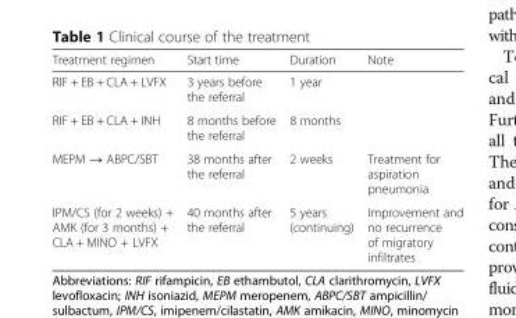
<table><thead><tr><td>Treatment regimen</td><td>Start time</td><td>Duration</td><td>Note</td></tr></thead><tbody><tr><td>RIF + EB + CLA + LVFX</td><td>3 years before the referral</td><td>1 year</td><td></td></tr><tr><td>RIF + EB + CLA + INH</td><td>8 months before the referral</td><td>8 months</td><td></td></tr><tr><td>MEPM → ABPC/SBT</td><td>38 months after the referral</td><td>2 weeks</td><td>Treatment for aspiration pneumonia</td></tr><tr><td>IPM/CS (for 2 weeks) + AMK (for 3 months) + CLA + MINO + LVFX</td><td>40 months after the referral</td><td>5 years (continuing)</td><td>Improvement and no recurrence of migratory infiltrates</td></tr></tbody></table>